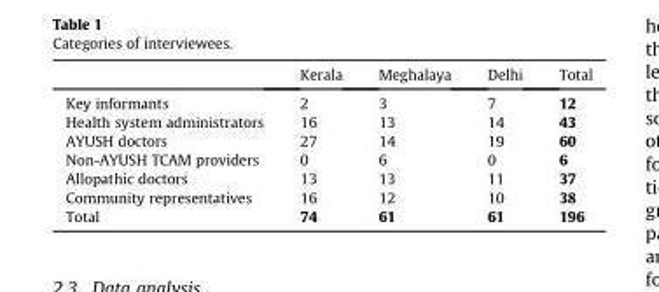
<table><thead><tr><td></td><td>Kerala</td><td>Meghalaya</td><td>Delhi</td><td>Total</td></tr></thead><tbody><tr><td>Key informants</td><td>2</td><td>3</td><td>7</td><td>12</td></tr><tr><td>Health system administrators</td><td>16</td><td>13</td><td>14</td><td>43</td></tr><tr><td>AYUSH doctors</td><td>27</td><td>14</td><td>19</td><td>60</td></tr><tr><td>Non-AYUSH TCAM providers</td><td>0</td><td>6</td><td>0</td><td>6</td></tr><tr><td>Allopathic doctors</td><td>13</td><td>13</td><td>11</td><td>37</td></tr><tr><td>Community representatives</td><td>16</td><td>12</td><td>10</td><td>38</td></tr><tr><td>Total</td><td>74</td><td>61</td><td>61</td><td>196</td></tr></tbody></table>